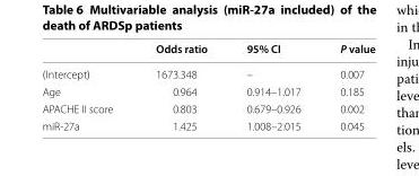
<table><thead><tr><td></td><td>Odds ratio</td><td>95% CI</td><td>P value</td></tr></thead><tbody><tr><td>(Intercept)</td><td>1673.348</td><td>–</td><td>0.007</td></tr><tr><td>Age</td><td>0.964</td><td>0.914–1.017</td><td>0.185</td></tr><tr><td>APACHE II score</td><td>0.803</td><td>0.679–0.926</td><td>0.002</td></tr><tr><td>miR‑27a</td><td>1.425</td><td>1.008–2.015</td><td>0.045</td></tr></tbody></table>